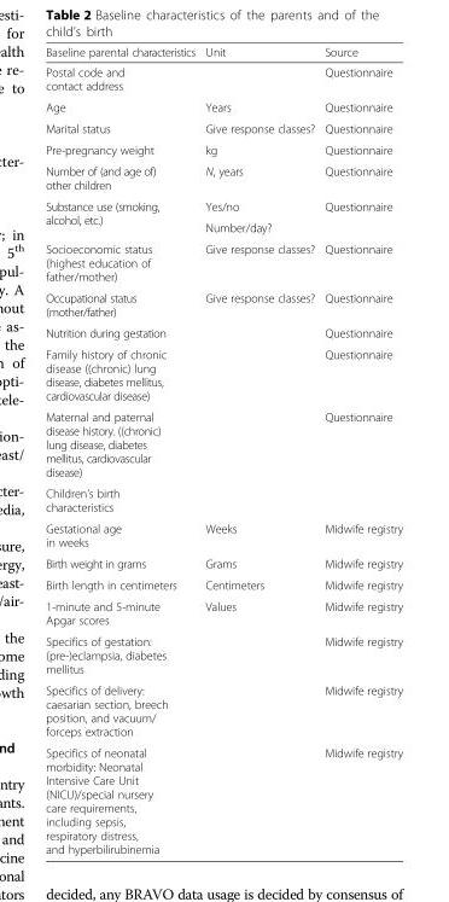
<table><thead><tr><td>Baseline parental characteristics</td><td>Unit</td><td>Source</td></tr></thead><tbody><tr><td>Postal code and contact address</td><td></td><td>Questionnaire</td></tr><tr><td>Age</td><td>Years</td><td>Questionnaire</td></tr><tr><td>Marital status</td><td>Give response classes?</td><td>Questionnaire</td></tr><tr><td>Pre-pregnancy weight</td><td>kg</td><td>Questionnaire</td></tr><tr><td>Number of (and age of) other children</td><td>N, years</td><td>Questionnaire</td></tr><tr><td rowspan="2">Substance use (smoking, alcohol, etc.)</td><td>Yes/no</td><td rowspan="2">Questionnaire</td></tr><tr><td>Number/day?</td></tr><tr><td>Socioeconomic status (highest education of father/mother)</td><td>Give response classes?</td><td>Questionnaire</td></tr><tr><td>Occupational status (mother/father)</td><td>Give response classes?</td><td>Questionnaire</td></tr><tr><td>Nutrition during gestation</td><td></td><td>Questionnaire</td></tr><tr><td>Family history of chronic disease ((chronic) lung disease, diabetes mellitus, cardiovascular disease)</td><td></td><td>Questionnaire</td></tr><tr><td>Maternal and paternal disease history. ((chronic) lung disease, diabetes mellitus, cardiovascular disease)</td><td></td><td>Questionnaire</td></tr><tr><td colspan="3">Children’s birth characteristics</td></tr><tr><td>Gestational age in weeks</td><td>Weeks</td><td>Midwife registry</td></tr><tr><td>Birth weight in grams</td><td>Grams</td><td>Midwife registry</td></tr><tr><td>Birth length in centimeters</td><td>Centimeters</td><td>Midwife registry</td></tr><tr><td>1-minute and 5-minute Apgar scores</td><td>Values</td><td>Midwife registry</td></tr><tr><td>Specifics of gestation: (pre-)eclampsia, diabetes mellitus</td><td></td><td>Midwife registry</td></tr><tr><td>Specifics of delivery: caesarian section, breech position, and vacuum/ forceps extraction</td><td></td><td>Midwife registry</td></tr><tr><td>Specifics of neonatal morbidity: Neonatal Intensive Care Unit (NICU)/special nursery care requirements, including sepsis, respiratory distress, and hyperbilirubinemia</td><td></td><td>Midwife registry</td></tr></tbody></table>